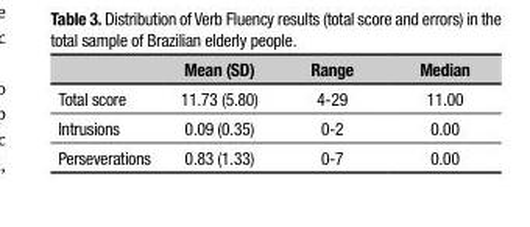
<table><thead><tr><td></td><td>Mean (SD)</td><td>Range</td><td>Median</td></tr></thead><tbody><tr><td>Total score</td><td>11.73 (5.80)</td><td>4-29</td><td>11.00</td></tr><tr><td>Intrusions</td><td>0.09 (0.35)</td><td>0-2</td><td>0.00</td></tr><tr><td>Perseverations</td><td>0.83 (1.33)</td><td>0-7</td><td>0.00</td></tr></tbody></table>